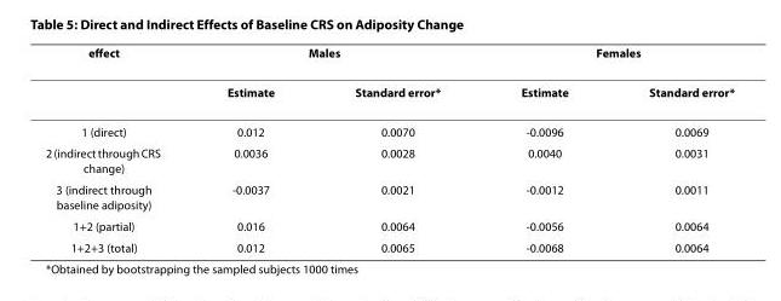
<table><thead><tr><td rowspan="2">effect</td><td colspan="2">Males</td><td colspan="2">Females</td></tr><tr><td>Estimate</td><td>Standard error*</td><td>Estimate</td><td>Standard error*</td></tr></thead><tbody><tr><td>1 (direct)</td><td>0.012</td><td>0.0070</td><td>-0.0096</td><td>0.0069</td></tr><tr><td>2 (indirect through CRS change)</td><td>0.0036</td><td>0.0028</td><td>0.0040</td><td>0.0031</td></tr><tr><td>3 (indirect through baseline adiposity)</td><td>-0.0037</td><td>0.0021</td><td>-0.0012</td><td>0.0011</td></tr><tr><td>1+2 (partial)</td><td>0.016</td><td>0.0064</td><td>-0.0056</td><td>0.0064</td></tr><tr><td>1+2+3 (total)</td><td>0.012</td><td>0.0065</td><td>-0.0068</td><td>0.0064</td></tr></tbody></table>